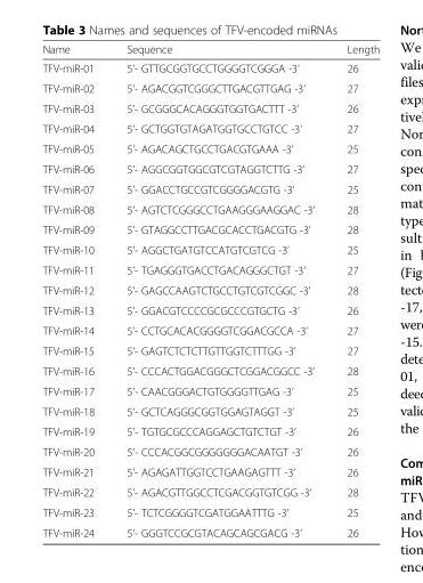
<table><thead><tr><td>Name</td><td>Sequence</td><td>Length</td></tr></thead><tbody><tr><td>TFV-miR-01</td><td>5’- GTTGCGGTGCCTGGGGTCGGGA -3’</td><td>26</td></tr><tr><td>TFV-miR-02</td><td>5’- AGACGGTCGGGCTTGACGTTGAG -3’</td><td>27</td></tr><tr><td>TFV-miR-03</td><td>5’- GCGGGCACAGGGTGGTGACTTT -3’</td><td>26</td></tr><tr><td>TFV-miR-04</td><td>5’- GCTGGTGTAGATGGTGCCTGTCC -3’</td><td>27</td></tr><tr><td>TFV-miR-05</td><td>5’- AGACAGCTGCCTGACGTGAAA -3’</td><td>25</td></tr><tr><td>TFV-miR-06</td><td>5’- AGGCGGTGGCGTCGTAGGTCTTG -3’</td><td>27</td></tr><tr><td>TFV-miR-07</td><td>5’- GGACCTGCCGTCGGGGACGTG -3’</td><td>25</td></tr><tr><td>TFV-miR-08</td><td>5’- AGTCTCGGGCCTGAAGGGAAGGAC -3’</td><td>28</td></tr><tr><td>TFV-miR-09</td><td>5’- GTAGGCCTTGACGCACCTGACGTG -3’</td><td>28</td></tr><tr><td>TFV-miR-10</td><td>5’- AGGCTGATGTCCATGTCGTCG -3’</td><td>25</td></tr><tr><td>TFV-miR-11</td><td>5’- TGAGGGTGACCTGACAGGGCTGT -3’</td><td>27</td></tr><tr><td>TFV-miR-12</td><td>5’- GAGCCAAGTCTGCCTGTCGTCGGC -3’</td><td>28</td></tr><tr><td>TFV-miR-13</td><td>5’- GGACGTCCCCGCGCCCGTGCTG -3’</td><td>26</td></tr><tr><td>TFV-miR-14</td><td>5’- CCTGCACACGGGGTCGGACGCCA -3’</td><td>27</td></tr><tr><td>TFV-miR-15</td><td>5’- GAGTCTCTCTTGTTGGTCTTTGG -3’</td><td>27</td></tr><tr><td>TFV-miR-16</td><td>5’- CCCACTGGACGGGCTCGGACGGCC -3’</td><td>28</td></tr><tr><td>TFV-miR-17</td><td>5’- CAACGGGACTGTGGGGTTGAG -3’</td><td>25</td></tr><tr><td>TFV-miR-18</td><td>5’- GCTCAGGGCGGTGGAGTAGGT -3’</td><td>25</td></tr><tr><td>TFV-miR-19</td><td>5’- TGTGCGCCCAGGAGCTGTCTGT -3’</td><td>26</td></tr><tr><td>TFV-miR-20</td><td>5’- CCCACGGCGGGGGGGACAATGT -3’</td><td>26</td></tr><tr><td>TFV-miR-21</td><td>5’- AGAGATTGGTCCTGAAGAGTTT -3’</td><td>26</td></tr><tr><td>TFV-miR-22</td><td>5’- AGACGTTGGCCTCGACGGTGTCGG -3’</td><td>28</td></tr><tr><td>TFV-miR-23</td><td>5’- TCTCGGGGTCGATGGAATTTG -3’</td><td>25</td></tr><tr><td>TFV-miR-24</td><td>5’- GGGTCCGCGTACAGCAGCGACG -3’</td><td>26</td></tr></tbody></table>